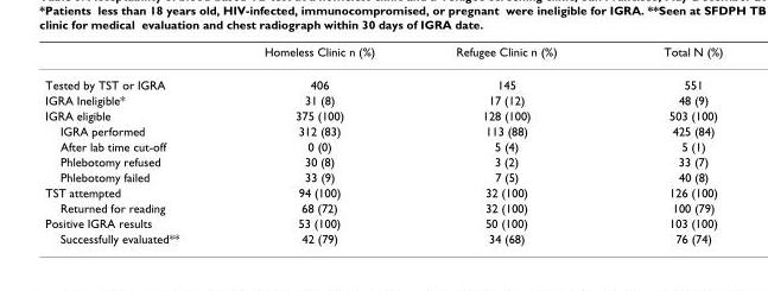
<table><thead><tr><td></td><td>Homeless Clinic n (%)</td><td>Refugee Clinic n (%)</td><td>Total N (%)</td></tr></thead><tbody><tr><td>Tested by TST or IGRA</td><td>406</td><td>145</td><td>551</td></tr><tr><td>IGRA Ineligible*</td><td>31 (8)</td><td>17 (12)</td><td>48 (9)</td></tr><tr><td>IGRA eligible</td><td>375 (100)</td><td>128 (100)</td><td>503 (100)</td></tr><tr><td>IGRA performed</td><td>312 (83)</td><td>113 (88)</td><td>425 (84)</td></tr><tr><td>After lab time cut-off</td><td>0 (0)</td><td>5 (4)</td><td>5 (1)</td></tr><tr><td>Phlebotomy refused</td><td>30 (8)</td><td>3 (2)</td><td>33 (7)</td></tr><tr><td>Phlebotomy failed</td><td>33 (9)</td><td>7 (5)</td><td>40 (8)</td></tr><tr><td>TST attempted</td><td>94 (100)</td><td>32 (100)</td><td>126 (100)</td></tr><tr><td>Returned for reading</td><td>68 (72)</td><td>32 (100)</td><td>100 (79)</td></tr><tr><td>Positive IGRA results</td><td>53 (100)</td><td>50 (100)</td><td>103 (100)</td></tr><tr><td>Successfully evaluated**</td><td>42 (79)</td><td>34 (68)</td><td>76 (74)</td></tr></tbody></table>